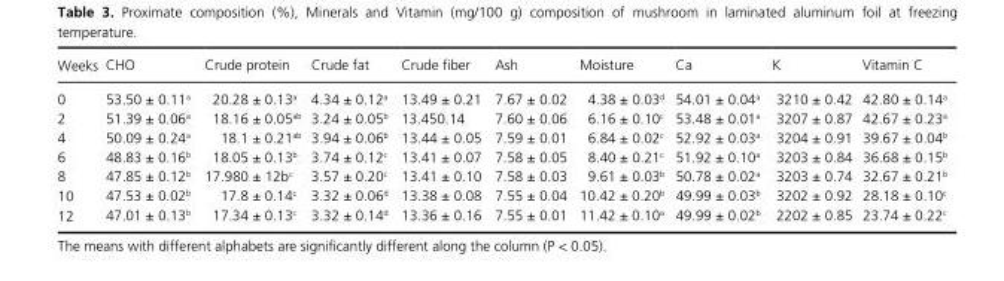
<table><thead><tr><td>Weeks</td><td>CHO</td><td>Crude protein</td><td>Crude fat</td><td>Crude fi ber</td><td>Ash</td><td>Moisture</td><td>Ca</td><td>K</td><td>Vitamin C</td></tr></thead><tbody><tr><td>0</td><td>53.50 ± 0.11 <sup>a</sup></td><td>20.28 ± 0.13 <sup>a</sup></td><td>4.34 ± 0.12 <sup>a</sup></td><td>13.49 ± 0.21</td><td>7.67 ± 0.02</td><td>4.38 ± 0.03 <sup>d</sup></td><td>54.01 ± 0.04 <sup>a</sup></td><td>3210 ± 0.42</td><td>42.80 ± 0.14 <sup>a</sup></td></tr><tr><td>2</td><td>51.39 ± 0.06 <sup>a</sup></td><td>18.16 ± 0.05 <sup>ab</sup></td><td>3.24 ± 0.05 <sup>b</sup></td><td>13.450.14</td><td>7.60 ± 0.06</td><td>6.16 ± 0.10 <sup>c</sup></td><td>53.48 ± 0.01 <sup>a</sup></td><td>3207 ± 0.87</td><td>42.67 ± 0.23 <sup>a</sup></td></tr><tr><td>4</td><td>50.09 ± 0.24 <sup>a</sup></td><td>18.1 ± 0.21 <sup>ab</sup></td><td>3.94 ± 0.06 <sup>b</sup></td><td>13.44 ± 0.05</td><td>7.59 ± 0.01</td><td>6.84 ± 0.02 <sup>c</sup></td><td>52.92 ± 0.03 <sup>a</sup></td><td>3204 ± 0.91</td><td>39.67 ± 0.04 <sup>b</sup></td></tr><tr><td>6</td><td>48.83 ± 0.16 <sup>b</sup></td><td>18.05 ± 0.13 <sup>b</sup></td><td>3.74 ± 0.12 <sup>c</sup></td><td>13.41 ± 0.07</td><td>7.58 ± 0.05</td><td>8.40 ± 0.21 <sup>c</sup></td><td>51.92 ± 0.10 <sup>a</sup></td><td>3203 ± 0.84</td><td>36.68 ± 0.15 <sup>b</sup></td></tr><tr><td>8</td><td>47.85 ± 0.12 <sup>b</sup></td><td>17.980 ± 12b <sup>c</sup></td><td>3.57 ± 0.20 <sup>c</sup></td><td>13.41 ± 0.10</td><td>7.58 ± 0.03</td><td>9.61 ± 0.03 <sup>b</sup></td><td>50.78 ± 0.02 <sup>a</sup></td><td>3203 ± 0.74</td><td>32.67 ± 0.21 <sup>b</sup></td></tr><tr><td>10</td><td>47.53 ± 0.02 <sup>b</sup></td><td>17.8 ± 0.14 <sup>c</sup></td><td>3.32 ± 0.06 <sup>d</sup></td><td>13.38 ± 0.08</td><td>7.55 ± 0.04</td><td>10.42 ± 0.20 <sup>b</sup></td><td>49.99 ± 0.03 <sup>b</sup></td><td>3202 ± 0.92</td><td>28.18 ± 0.10 <sup>c</sup></td></tr><tr><td>12</td><td>47.01 ± 0.13 <sup>b</sup></td><td>17.34 ± 0.13 <sup>c</sup></td><td>3.32 ± 0.14 <sup>d</sup></td><td>13.36 ± 0.16</td><td>7.55 ± 0.01</td><td>11.42 ± 0.10 <sup>a</sup></td><td>49.99 ± 0.02 <sup>b</sup></td><td>2202 ± 0.85</td><td>23.74 ± 0.22 <sup>c</sup></td></tr></tbody></table>